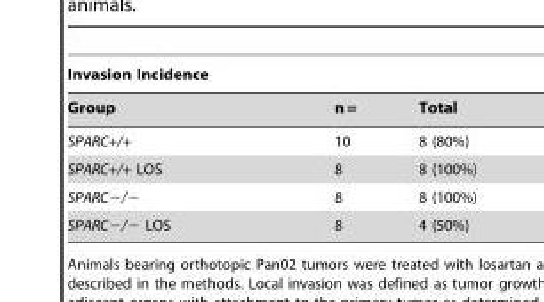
<table><thead><tr><td colspan="3">Invasion Incidence</td></tr><tr><td>Group</td><td>n =</td><td>Total</td></tr></thead><tbody><tr><td>SPARC+/+</td><td>10</td><td>8 (80%)</td></tr><tr><td>SPARC+/+ LOS</td><td>8</td><td>8 (100%)</td></tr><tr><td>SPARC−/−</td><td>8</td><td>8 (100%)</td></tr><tr><td>SPARC−/− LOS</td><td>8</td><td>4 (50%)</td></tr></tbody></table>